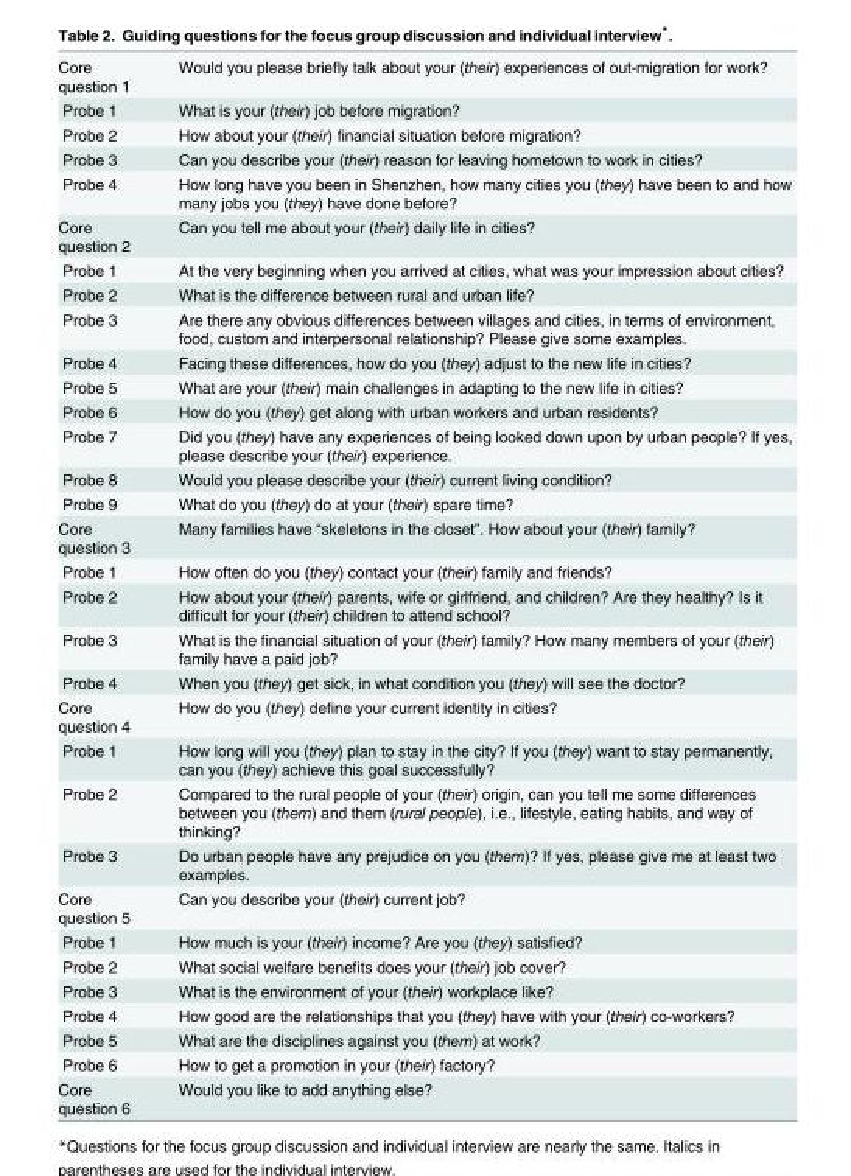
<table><tbody><tr><td>Core question 1</td><td>Would you please briefly talk about your (their) experiences of out-migration for work?</td></tr><tr><td>Probe 1</td><td>What is your (their) job before migration?</td></tr><tr><td>Probe 2</td><td>How about your (their) financial situation before migration?</td></tr><tr><td>Probe 3</td><td>Can you describe your (their) reason for leaving hometown to work in cities?</td></tr><tr><td>Probe 4</td><td>How long have you been in Shenzhen, how many cities you (they) have been to and how many jobs you (they) have done before?</td></tr><tr><td>Core question 2</td><td>Can you tell me about your (their) daily life in cities?</td></tr><tr><td>Probe 1</td><td>At the very beginning when you arrived at cities, what was your impression about cities?</td></tr><tr><td>Probe 2</td><td>What is the difference between rural and urban life?</td></tr><tr><td>Probe 3</td><td>Are there any obvious differences between villages and cities, in terms of environment, food, custom and interpersonal relationship? Please give some examples.</td></tr><tr><td>Probe 4</td><td>Facing these differences, how do you (they) adjust to the new life in cities?</td></tr><tr><td>Probe 5</td><td>What are your (their) main challenges in adapting to the new life in cities?</td></tr><tr><td>Probe 6</td><td>How do you (they) get along with urban workers and urban residents?</td></tr><tr><td>Probe 7</td><td>Did you (they) have any experiences of being looked down upon by urban people? If yes, please describe your (their) experience.</td></tr><tr><td>Probe 8</td><td>Would you please describe your (their) current living condition?</td></tr><tr><td>Probe 9</td><td>What do you (they) do at your (their) spare time?</td></tr><tr><td>Core question 3</td><td>Many families have “skeletons in the closet”. How about your (their) family?</td></tr><tr><td>Probe 1</td><td>How often do you (they) contact your (their) family and friends?</td></tr><tr><td>Probe 2</td><td>How about your (their) parents, wife or girlfriend, and children? Are they healthy? Is it difficult for your (their) children to attend school?</td></tr><tr><td>Probe 3</td><td>What is the financial situation of your (their) family? How many members of your (their) family have a paid job?</td></tr><tr><td>Probe 4</td><td>When you (they) get sick, in what condition you (they) will see the doctor?</td></tr><tr><td>Core question 4</td><td>How do you (they) define your current identity in cities?</td></tr><tr><td>Probe 1</td><td>How long will you (they) plan to stay in the city? If you (they) want to stay permanently, can you (they) achieve this goal successfully?</td></tr><tr><td>Probe 2</td><td>Compared to the rural people of your (their) origin, can you tell me some differences between you (them) and them (rural people), i.e., lifestyle, eating habits, and way of thinking?</td></tr><tr><td>Probe 3</td><td>Do urban people have any prejudice on you (them)? If yes, please give me at least two examples.</td></tr><tr><td>Core question 5</td><td>Can you describe your (their) current job?</td></tr><tr><td>Probe 1</td><td>How much is your (their) income? Are you (they) satisfied?</td></tr><tr><td>Probe 2</td><td>What social welfare benefits does your (their) job cover?</td></tr><tr><td>Probe 3</td><td>What is the environment of your (their) workplace like?</td></tr><tr><td>Probe 4</td><td>How good are the relationships that you (they) have with your (their) co-workers?</td></tr><tr><td>Probe 5</td><td>What are the disciplines against you (them) at work?</td></tr><tr><td>Probe 6</td><td>How to get a promotion in your (their) factory?</td></tr><tr><td>Core question 6</td><td>Would you like to add anything else?</td></tr></tbody></table>